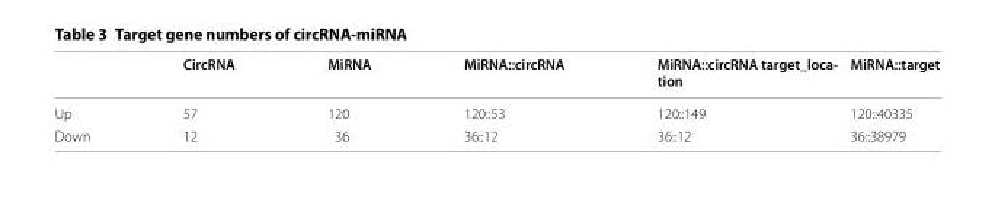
<table><thead><tr><td></td><td>CircRNA</td><td>MiRNA</td><td>MiRNA::circRNA</td><td>MiRNA::circRNA target_loca‑ tion</td><td>MiRNA::target</td></tr></thead><tbody><tr><td>Up</td><td>57</td><td>120</td><td>120::53</td><td>120::149</td><td>120::40335</td></tr><tr><td>Down</td><td>12</td><td>36</td><td>36::12</td><td>36::12</td><td>36::38979</td></tr></tbody></table>